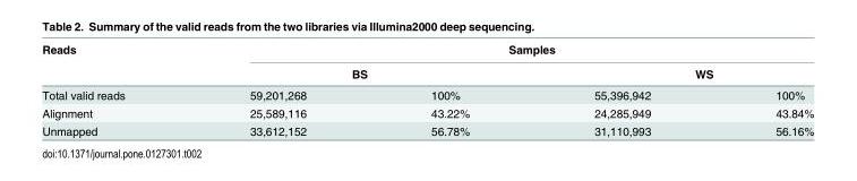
<table><thead><tr><td rowspan="3">Reads Total valid reads</td><td colspan="4">Samples</td></tr><tr><td colspan="2">BS</td><td colspan="2">WS</td></tr><tr><td>59,201,268</td><td>100%</td><td>55,396,942</td><td>100%</td></tr></thead><tbody><tr><td>Alignment</td><td>25,589,116</td><td>43.22%</td><td>24,285,949</td><td>43.84%</td></tr><tr><td>Unmapped</td><td>33,612,152</td><td>56.78%</td><td>31,110,993</td><td>56.16%</td></tr></tbody></table>